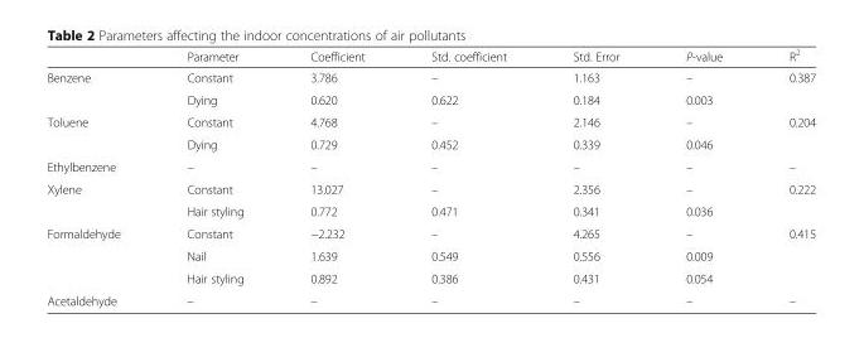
<table><thead><tr><td></td><td>Parameter</td><td>Coefficient</td><td>Std. coefficient</td><td>Std. Error</td><td>P-value</td><td>R<sup>2</sup></td></tr></thead><tbody><tr><td rowspan="2">Benzene</td><td>Constant</td><td>3.786</td><td>–</td><td>1.163</td><td>–</td><td rowspan="2">0.387</td></tr><tr><td>Dying</td><td>0.620</td><td>0.622</td><td>0.184</td><td>0.003</td></tr><tr><td rowspan="2">Toluene</td><td>Constant</td><td>4.768</td><td>–</td><td>2.146</td><td>–</td><td rowspan="2">0.204</td></tr><tr><td>Dying</td><td>0.729</td><td>0.452</td><td>0.339</td><td>0.046</td></tr><tr><td>Ethylbenzene</td><td>–</td><td>–</td><td>–</td><td>–</td><td>–</td><td>–</td></tr><tr><td rowspan="2">Xylene</td><td>Constant</td><td>13.027</td><td>–</td><td>2.356</td><td>–</td><td rowspan="2">0.222</td></tr><tr><td>Hair styling</td><td>0.772</td><td>0.471</td><td>0.341</td><td>0.036</td></tr><tr><td rowspan="3">Formaldehyde</td><td>Constant</td><td>−2.232</td><td>–</td><td>4.265</td><td>–</td><td rowspan="3">0.415</td></tr><tr><td>Nail</td><td>1.639</td><td>0.549</td><td>0.556</td><td>0.009</td></tr><tr><td>Hair styling</td><td>0.892</td><td>0.386</td><td>0.431</td><td>0.054</td></tr><tr><td>Acetaldehyde</td><td>–</td><td>–</td><td>–</td><td>–</td><td>–</td><td>–</td></tr></tbody></table>